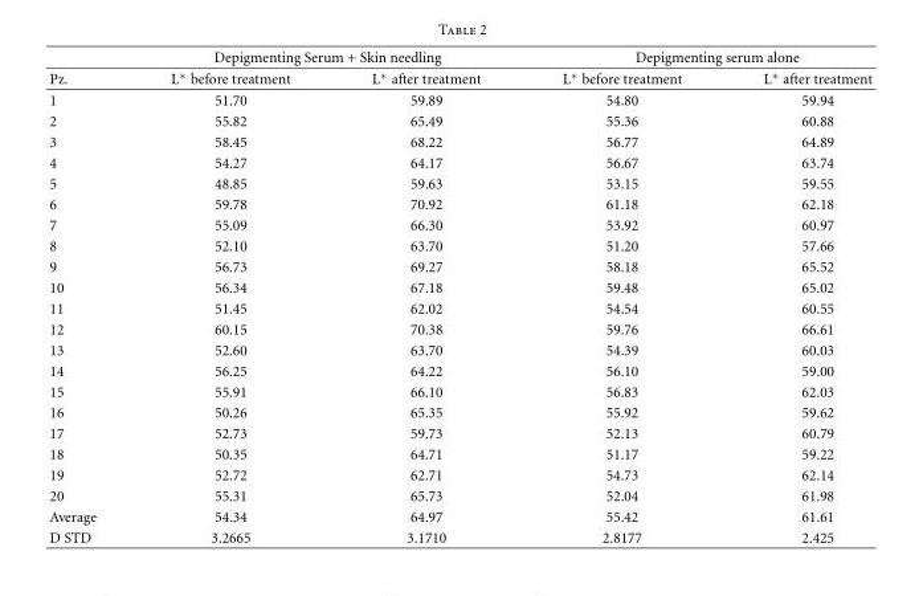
<table><thead><tr><td rowspan="2">Pz.</td><td colspan="2">Depigmenting Serum + Skin needling</td><td colspan="2">Depigmenting serum alone</td></tr><tr><td>L∗ before treatment</td><td>L∗ after treatment</td><td>L∗ before treatment</td><td>L∗ after treatment</td></tr></thead><tbody><tr><td>1</td><td>51.70</td><td>59.89</td><td>54.80</td><td>59.94</td></tr><tr><td>2</td><td>55.82</td><td>65.49</td><td>55.36</td><td>60.88</td></tr><tr><td>3</td><td>58.45</td><td>68.22</td><td>56.77</td><td>64.89</td></tr><tr><td>4</td><td>54.27</td><td>64.17</td><td>56.67</td><td>63.74</td></tr><tr><td>5</td><td>48.85</td><td>59.63</td><td>53.15</td><td>59.55</td></tr><tr><td>6</td><td>59.78</td><td>70.92</td><td>61.18</td><td>62.18</td></tr><tr><td>7</td><td>55.09</td><td>66.30</td><td>53.92</td><td>60.97</td></tr><tr><td>8</td><td>52.10</td><td>63.70</td><td>51.20</td><td>57.66</td></tr><tr><td>9</td><td>56.73</td><td>69.27</td><td>58.18</td><td>65.52</td></tr><tr><td>10</td><td>56.34</td><td>67.18</td><td>59.48</td><td>65.02</td></tr><tr><td>11</td><td>51.45</td><td>62.02</td><td>54.54</td><td>60.55</td></tr><tr><td>12</td><td>60.15</td><td>70.38</td><td>59.76</td><td>66.61</td></tr><tr><td>13</td><td>52.60</td><td>63.70</td><td>54.39</td><td>60.03</td></tr><tr><td>14</td><td>56.25</td><td>64.22</td><td>56.10</td><td>59.00</td></tr><tr><td>15</td><td>55.91</td><td>66.10</td><td>56.83</td><td>62.03</td></tr><tr><td>16</td><td>50.26</td><td>65.35</td><td>55.92</td><td>59.62</td></tr><tr><td>17</td><td>52.73</td><td>59.73</td><td>52.13</td><td>60.79</td></tr><tr><td>18</td><td>50.35</td><td>64.71</td><td>51.17</td><td>59.22</td></tr><tr><td>19</td><td>52.72</td><td>62.71</td><td>54.73</td><td>62.14</td></tr><tr><td>20</td><td>55.31</td><td>65.73</td><td>52.04</td><td>61.98</td></tr><tr><td>Average</td><td>54.34</td><td>64.97</td><td>55.42</td><td>61.61</td></tr><tr><td>D STD</td><td>3.2665</td><td>3.1710</td><td>2.8177</td><td>2.425</td></tr></tbody></table>